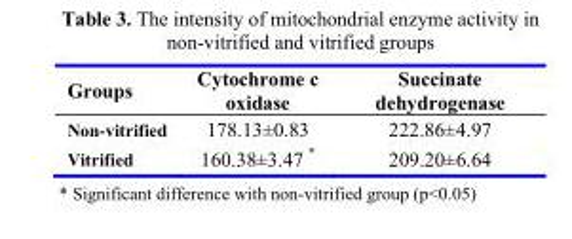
<table><thead><tr><td>Groups</td><td>Cytochrome c oxidase</td><td>Succinate dehydrogenase</td></tr></thead><tbody><tr><td>Non-vitrified</td><td>178.13±0.83</td><td>222.86±4.97</td></tr><tr><td>Vitrified</td><td>160.38±3.47 *</td><td>209.20±6.64</td></tr></tbody></table>